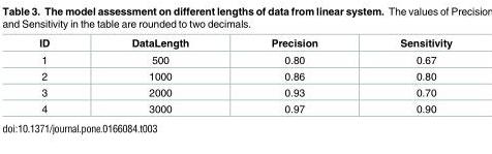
<table><thead><tr><td>ID</td><td>DataLength</td><td>Precision</td><td>Sensitivity</td></tr></thead><tbody><tr><td>1</td><td>500</td><td>0.80</td><td>0.67</td></tr><tr><td>2</td><td>1000</td><td>0.86</td><td>0.80</td></tr><tr><td>3</td><td>2000</td><td>0.93</td><td>0.70</td></tr><tr><td>4</td><td>3000</td><td>0.97</td><td>0.90</td></tr></tbody></table>